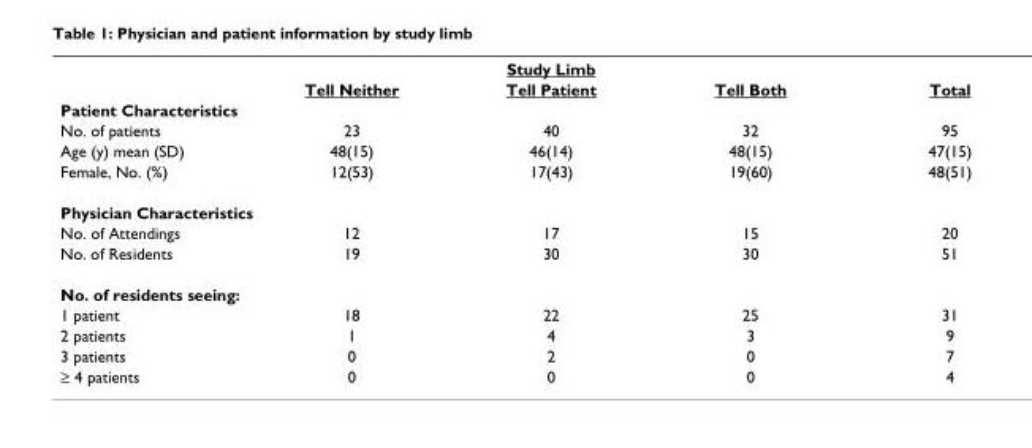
<table><thead><tr><td rowspan="2"></td><td colspan="3">Study Limb</td><td rowspan="2">Total</td></tr><tr><td>Tell Neither</td><td>Tell Patient</td><td>Tell Both</td></tr></thead><tbody><tr><td colspan="5">Patient Characteristics</td></tr><tr><td>No. of patients</td><td>23</td><td>40</td><td>32</td><td>95</td></tr><tr><td>Age (y) mean (SD)</td><td>48(15)</td><td>46(14)</td><td>48(15)</td><td>47(15)</td></tr><tr><td>Female, No. (%)</td><td>12(53)</td><td>17(43)</td><td>19(60)</td><td>48(51)</td></tr><tr><td colspan="5">Physician Characteristics</td></tr><tr><td>No. of Attendings</td><td>12</td><td>17</td><td>15</td><td>20</td></tr><tr><td>No. of Residents</td><td>19</td><td>30</td><td>30</td><td>51</td></tr><tr><td colspan="5">No. of residents seeing:</td></tr><tr><td>1 patient</td><td>18</td><td>22</td><td>25</td><td>31</td></tr><tr><td>2 patients</td><td>1</td><td>4</td><td>3</td><td>9</td></tr><tr><td>3 patients</td><td>0</td><td>2</td><td>0</td><td>7</td></tr><tr><td>≥ 4 patients</td><td>0</td><td>0</td><td>0</td><td>4</td></tr></tbody></table>